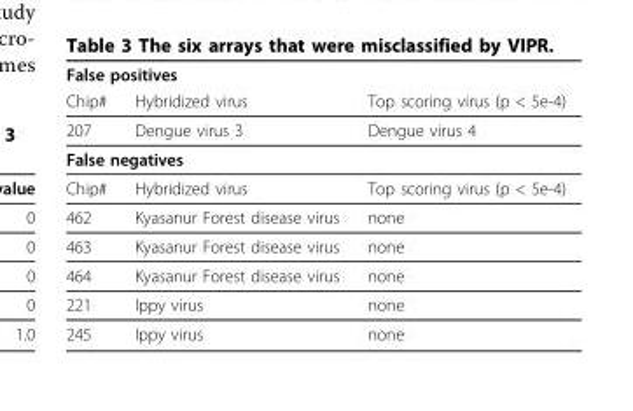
<table><thead><tr><td colspan="2">False positives</td><td rowspan="2">Top scoring virus (p &lt; 5e-4)</td></tr><tr><td>Chip#</td><td>Hybridized virus</td></tr></thead><tbody><tr><td>207</td><td>Dengue virus 3</td><td>Dengue virus 4</td></tr><tr><td colspan="3">False negatives</td></tr><tr><td>Chip#</td><td>Hybridized virus</td><td>Top scoring virus (p &lt; 5e-4)</td></tr><tr><td>462</td><td>Kyasanur Forest disease virus</td><td>none</td></tr><tr><td>463</td><td>Kyasanur Forest disease virus</td><td>none</td></tr><tr><td>464</td><td>Kyasanur Forest disease virus</td><td>none</td></tr><tr><td>221</td><td>Ippy virus</td><td>none</td></tr><tr><td>245</td><td>Ippy virus</td><td>none</td></tr></tbody></table>